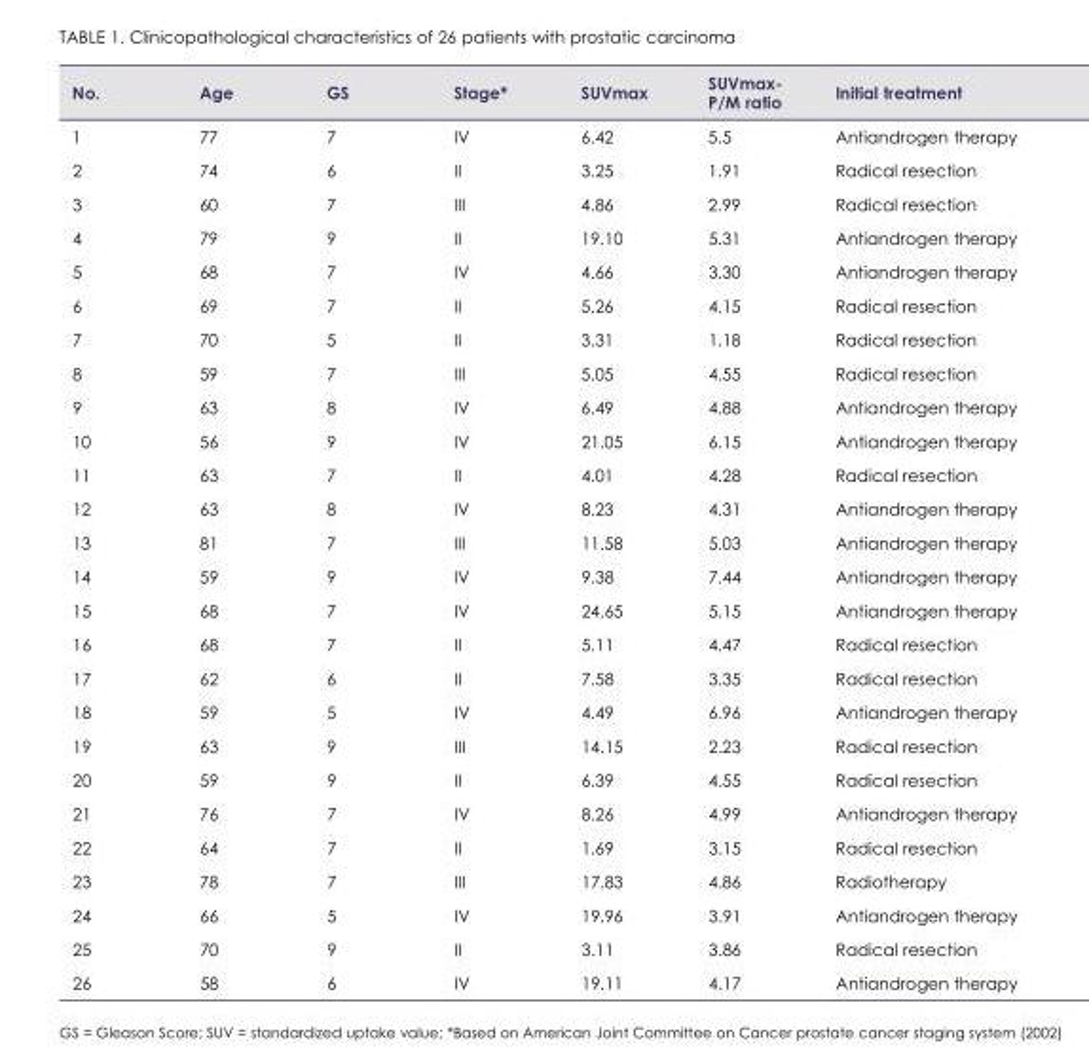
<table><thead><tr><td>No.</td><td>Age</td><td>GS</td><td>Stage*</td><td>SUVmax</td><td>SUVmax- P/M ratio</td><td>Initial treatment</td></tr></thead><tbody><tr><td>1</td><td>77</td><td>7</td><td>IV</td><td>6.42</td><td>5.5</td><td>Antiandrogen therapy</td></tr><tr><td>2</td><td>74</td><td>6</td><td>II</td><td>3.25</td><td>1.91</td><td>Radical resection</td></tr><tr><td>3</td><td>60</td><td>7</td><td>III</td><td>4.86</td><td>2.99</td><td>Radical resection</td></tr><tr><td>4</td><td>79</td><td>9</td><td>II</td><td>19.10</td><td>5.31</td><td>Antiandrogen therapy</td></tr><tr><td>5</td><td>68</td><td>7</td><td>IV</td><td>4.66</td><td>3.30</td><td>Antiandrogen therapy</td></tr><tr><td>6</td><td>69</td><td>7</td><td>II</td><td>5.26</td><td>4.15</td><td>Radical resection</td></tr><tr><td>7</td><td>70</td><td>5</td><td>II</td><td>3.31</td><td>1.18</td><td>Radical resection</td></tr><tr><td>8</td><td>59</td><td>7</td><td>III</td><td>5.05</td><td>4.55</td><td>Radical resection</td></tr><tr><td>9</td><td>63</td><td>8</td><td>IV</td><td>6.49</td><td>4.88</td><td>Antiandrogen therapy</td></tr><tr><td>10</td><td>56</td><td>9</td><td>IV</td><td>21.05</td><td>6.15</td><td>Antiandrogen therapy</td></tr><tr><td>11</td><td>63</td><td>7</td><td>II</td><td>4.01</td><td>4.28</td><td>Radical resection</td></tr><tr><td>12</td><td>63</td><td>8</td><td>IV</td><td>8.23</td><td>4.31</td><td>Antiandrogen therapy</td></tr><tr><td>13</td><td>81</td><td>7</td><td>III</td><td>11.58</td><td>5.03</td><td>Antiandrogen therapy</td></tr><tr><td>14</td><td>59</td><td>9</td><td>IV</td><td>9.38</td><td>7.44</td><td>Antiandrogen therapy</td></tr><tr><td>15</td><td>68</td><td>7</td><td>IV</td><td>24.65</td><td>5.15</td><td>Antiandrogen therapy</td></tr><tr><td>16</td><td>68</td><td>7</td><td>II</td><td>5.11</td><td>4.47</td><td>Radical resection</td></tr><tr><td>17</td><td>62</td><td>6</td><td>II</td><td>7.58</td><td>3.35</td><td>Radical resection</td></tr><tr><td>18</td><td>59</td><td>5</td><td>IV</td><td>4.49</td><td>6.96</td><td>Antiandrogen therapy</td></tr><tr><td>19</td><td>63</td><td>9</td><td>III</td><td>14.15</td><td>2.23</td><td>Radical resection</td></tr><tr><td>20</td><td>59</td><td>9</td><td>II</td><td>6.39</td><td>4.55</td><td>Radical resection</td></tr><tr><td>21</td><td>76</td><td>7</td><td>IV</td><td>8.26</td><td>4.99</td><td>Antiandrogen therapy</td></tr><tr><td>22</td><td>64</td><td>7</td><td>II</td><td>1.69</td><td>3.15</td><td>Radical resection</td></tr><tr><td>23</td><td>78</td><td>7</td><td>III</td><td>17.83</td><td>4.86</td><td>Radiotherapy</td></tr><tr><td>24</td><td>66</td><td>5</td><td>IV</td><td>19.96</td><td>3.91</td><td>Antiandrogen therapy</td></tr><tr><td>25</td><td>70</td><td>9</td><td>II</td><td>3.11</td><td>3.86</td><td>Radical resection</td></tr><tr><td>26</td><td>58</td><td>6</td><td>IV</td><td>19.11</td><td>4.17</td><td>Antiandrogen therapy</td></tr></tbody></table>